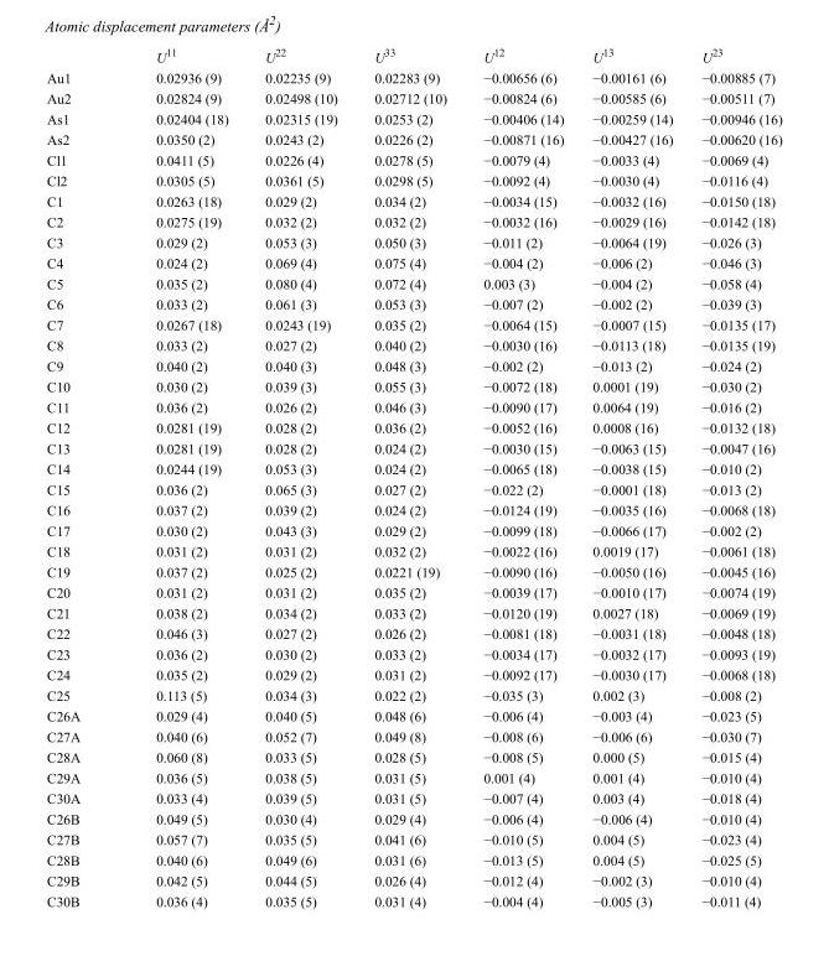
<table><thead><tr><td></td><td>U<sup>11</sup></td><td>U<sup>22</sup></td><td>U<sup>33</sup></td><td>U<sup>12</sup></td><td>U<sup>13</sup></td><td>U<sup>23</sup></td></tr></thead><tbody><tr><td>Au1</td><td>0.02936 (9)</td><td>0.02235 (9)</td><td>0.02283 (9)</td><td>−0.00656 (6)</td><td>−0.00161 (6)</td><td>−0.00885 (7)</td></tr><tr><td>Au2</td><td>0.02824 (9)</td><td>0.02498 (10)</td><td>0.02712 (10)</td><td>−0.00824 (6)</td><td>−0.00585 (6)</td><td>−0.00511 (7)</td></tr><tr><td>As1</td><td>0.02404 (18)</td><td>0.02315 (19)</td><td>0.0253 (2)</td><td>−0.00406 (14)</td><td>−0.00259 (14)</td><td>−0.00946 (16)</td></tr><tr><td>As2</td><td>0.0350 (2)</td><td>0.0243 (2)</td><td>0.0226 (2)</td><td>−0.00871 (16)</td><td>−0.00427 (16)</td><td>−0.00620 (16)</td></tr><tr><td>Cl1</td><td>0.0411 (5)</td><td>0.0226 (4)</td><td>0.0278 (5)</td><td>−0.0079 (4)</td><td>−0.0033 (4)</td><td>−0.0069 (4)</td></tr><tr><td>Cl2</td><td>0.0305 (5)</td><td>0.0361 (5)</td><td>0.0298 (5)</td><td>−0.0092 (4)</td><td>−0.0030 (4)</td><td>−0.0116 (4)</td></tr><tr><td>C1</td><td>0.0263 (18)</td><td>0.029 (2)</td><td>0.034 (2)</td><td>−0.0034 (15)</td><td>−0.0032 (16)</td><td>−0.0150 (18)</td></tr><tr><td>C2</td><td>0.0275 (19)</td><td>0.032 (2)</td><td>0.032 (2)</td><td>−0.0032 (16)</td><td>−0.0029 (16)</td><td>−0.0142 (18)</td></tr><tr><td>C3</td><td>0.029 (2)</td><td>0.053 (3)</td><td>0.050 (3)</td><td>−0.011 (2)</td><td>−0.0064 (19)</td><td>−0.026 (3)</td></tr><tr><td>C4</td><td>0.024 (2)</td><td>0.069 (4)</td><td>0.075 (4)</td><td>−0.004 (2)</td><td>−0.006 (2)</td><td>−0.046 (3)</td></tr><tr><td>C5</td><td>0.035 (2)</td><td>0.080 (4)</td><td>0.072 (4)</td><td>0.003 (3)</td><td>−0.004 (2)</td><td>−0.058 (4)</td></tr><tr><td>C6</td><td>0.033 (2)</td><td>0.061 (3)</td><td>0.053 (3)</td><td>−0.007 (2)</td><td>−0.002 (2)</td><td>−0.039 (3)</td></tr><tr><td>C7</td><td>0.0267 (18)</td><td>0.0243 (19)</td><td>0.035 (2)</td><td>−0.0064 (15)</td><td>−0.0007 (15)</td><td>−0.0135 (17)</td></tr><tr><td>C8</td><td>0.033 (2)</td><td>0.027 (2)</td><td>0.040 (2)</td><td>−0.0030 (16)</td><td>−0.0113 (18)</td><td>−0.0135 (19)</td></tr><tr><td>C9</td><td>0.040 (2)</td><td>0.040 (3)</td><td>0.048 (3)</td><td>−0.002 (2)</td><td>−0.013 (2)</td><td>−0.024 (2)</td></tr><tr><td>C10</td><td>0.030 (2)</td><td>0.039 (3)</td><td>0.055 (3)</td><td>−0.0072 (18)</td><td>0.0001 (19)</td><td>−0.030 (2)</td></tr><tr><td>C11</td><td>0.036 (2)</td><td>0.026 (2)</td><td>0.046 (3)</td><td>−0.0090 (17)</td><td>0.0064 (19)</td><td>−0.016 (2)</td></tr><tr><td>C12</td><td>0.0281 (19)</td><td>0.028 (2)</td><td>0.036 (2)</td><td>−0.0052 (16)</td><td>0.0008 (16)</td><td>−0.0132 (18)</td></tr><tr><td>C13</td><td>0.0281 (19)</td><td>0.028 (2)</td><td>0.024 (2)</td><td>−0.0030 (15)</td><td>−0.0063 (15)</td><td>−0.0047 (16)</td></tr><tr><td>C14</td><td>0.0244 (19)</td><td>0.053 (3)</td><td>0.024 (2)</td><td>−0.0065 (18)</td><td>−0.0038 (15)</td><td>−0.010 (2)</td></tr><tr><td>C15</td><td>0.036 (2)</td><td>0.065 (3)</td><td>0.027 (2)</td><td>−0.022 (2)</td><td>−0.0001 (18)</td><td>−0.013 (2)</td></tr><tr><td>C16</td><td>0.037 (2)</td><td>0.039 (2)</td><td>0.024 (2)</td><td>−0.0124 (19)</td><td>−0.0035 (16)</td><td>−0.0068 (18)</td></tr><tr><td>C17</td><td>0.030 (2)</td><td>0.043 (3)</td><td>0.029 (2)</td><td>−0.0099 (18)</td><td>−0.0066 (17)</td><td>−0.002 (2)</td></tr><tr><td>C18</td><td>0.031 (2)</td><td>0.031 (2)</td><td>0.032 (2)</td><td>−0.0022 (16)</td><td>0.0019 (17)</td><td>−0.0061 (18)</td></tr><tr><td>C19</td><td>0.037 (2)</td><td>0.025 (2)</td><td>0.0221 (19)</td><td>−0.0090 (16)</td><td>−0.0050 (16)</td><td>−0.0045 (16)</td></tr><tr><td>C20</td><td>0.031 (2)</td><td>0.031 (2)</td><td>0.035 (2)</td><td>−0.0039 (17)</td><td>−0.0010 (17)</td><td>−0.0074 (19)</td></tr><tr><td>C21</td><td>0.038 (2)</td><td>0.034 (2)</td><td>0.033 (2)</td><td>−0.0120 (19)</td><td>0.0027 (18)</td><td>−0.0069 (19)</td></tr><tr><td>C22</td><td>0.046 (3)</td><td>0.027 (2)</td><td>0.026 (2)</td><td>−0.0081 (18)</td><td>−0.0031 (18)</td><td>−0.0048 (18)</td></tr><tr><td>C23</td><td>0.036 (2)</td><td>0.030 (2)</td><td>0.033 (2)</td><td>−0.0034 (17)</td><td>−0.0032 (17)</td><td>−0.0093 (19)</td></tr><tr><td>C24</td><td>0.035 (2)</td><td>0.029 (2)</td><td>0.031 (2)</td><td>−0.0092 (17)</td><td>−0.0030 (17)</td><td>−0.0068 (18)</td></tr><tr><td>C25</td><td>0.113 (5)</td><td>0.034 (3)</td><td>0.022 (2)</td><td>−0.035 (3)</td><td>0.002 (3)</td><td>−0.008 (2)</td></tr><tr><td>C26A</td><td>0.029 (4)</td><td>0.040 (5)</td><td>0.048 (6)</td><td>−0.006 (4)</td><td>−0.003 (4)</td><td>−0.023 (5)</td></tr><tr><td>C27A</td><td>0.040 (6)</td><td>0.052 (7)</td><td>0.049 (8)</td><td>−0.008 (6)</td><td>−0.006 (6)</td><td>−0.030 (7)</td></tr><tr><td>C28A</td><td>0.060 (8)</td><td>0.033 (5)</td><td>0.028 (5)</td><td>−0.008 (5)</td><td>0.000 (5)</td><td>−0.015 (4)</td></tr><tr><td>C29A</td><td>0.036 (5)</td><td>0.038 (5)</td><td>0.031 (5)</td><td>0.001 (4)</td><td>0.001 (4)</td><td>−0.010 (4)</td></tr><tr><td>C30A</td><td>0.033 (4)</td><td>0.039 (5)</td><td>0.031 (5)</td><td>−0.007 (4)</td><td>0.003 (4)</td><td>−0.018 (4)</td></tr><tr><td>C26B</td><td>0.049 (5)</td><td>0.030 (4)</td><td>0.029 (4)</td><td>−0.006 (4)</td><td>−0.006 (4)</td><td>−0.010 (4)</td></tr><tr><td>C27B</td><td>0.057 (7)</td><td>0.035 (5)</td><td>0.041 (6)</td><td>−0.010 (5)</td><td>0.004 (5)</td><td>−0.023 (4)</td></tr><tr><td>C28B</td><td>0.040 (6)</td><td>0.049 (6)</td><td>0.031 (6)</td><td>−0.013 (5)</td><td>0.004 (5)</td><td>−0.025 (5)</td></tr><tr><td>C29B</td><td>0.042 (5)</td><td>0.044 (5)</td><td>0.026 (4)</td><td>−0.012 (4)</td><td>−0.002 (3)</td><td>−0.010 (4)</td></tr><tr><td>C30B</td><td>0.036 (4)</td><td>0.035 (5)</td><td>0.031 (4)</td><td>−0.004 (4)</td><td>−0.005 (3)</td><td>−0.011 (4)</td></tr></tbody></table>